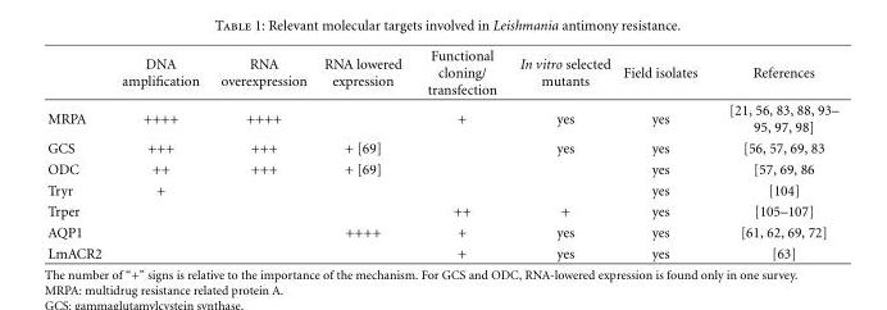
<table><thead><tr><td></td><td>DNA amplification</td><td>RNA overexpression</td><td>RNA lowered expression</td><td>Functional cloning/ transfection</td><td>In vitro selected mutants</td><td>Field isolates</td><td>References</td></tr></thead><tbody><tr><td>MRPA</td><td>++++</td><td>++++</td><td></td><td>+</td><td>yes</td><td>yes</td><td>[21, 56, 83, 88, 93– 95, 97, 98]</td></tr><tr><td>GCS</td><td>+++</td><td>+++</td><td>+ [69]</td><td></td><td>yes</td><td>yes</td><td>[56, 57, 69, 83</td></tr><tr><td>ODC</td><td>++</td><td>+++</td><td>+ [69]</td><td></td><td></td><td>yes</td><td>[57, 69, 86</td></tr><tr><td>Tryr</td><td>+</td><td></td><td></td><td></td><td></td><td>yes</td><td>[104]</td></tr><tr><td>Trper</td><td></td><td></td><td></td><td>++</td><td>+</td><td>yes</td><td>[105–107]</td></tr><tr><td>AQP1</td><td></td><td></td><td>++++</td><td>+</td><td>yes</td><td>yes</td><td>[61, 62, 69, 72]</td></tr><tr><td>LmACR2</td><td></td><td></td><td></td><td>+</td><td>yes</td><td>yes</td><td>[63]</td></tr></tbody></table>